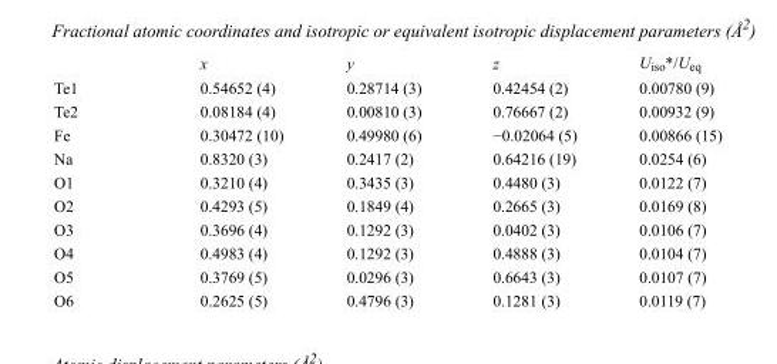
<table><thead><tr><td></td><td>x</td><td>y</td><td>z</td><td>U<sub>iso</sub>*/U<sub>eq</sub></td></tr></thead><tbody><tr><td>Te1</td><td>0.54652 (4)</td><td>0.28714 (3)</td><td>0.42454 (2)</td><td>0.00780 (9)</td></tr><tr><td>Te2</td><td>0.08184 (4)</td><td>0.00810 (3)</td><td>0.76667 (2)</td><td>0.00932 (9)</td></tr><tr><td>Fe</td><td>0.30472 (10)</td><td>0.49980 (6)</td><td>−0.02064 (5)</td><td>0.00866 (15)</td></tr><tr><td>Na</td><td>0.8320 (3)</td><td>0.2417 (2)</td><td>0.64216 (19)</td><td>0.0254 (6)</td></tr><tr><td>O1</td><td>0.3210 (4)</td><td>0.3435 (3)</td><td>0.4480 (3)</td><td>0.0122 (7)</td></tr><tr><td>O2</td><td>0.4293 (5)</td><td>0.1849 (4)</td><td>0.2665 (3)</td><td>0.0169 (8)</td></tr><tr><td>O3</td><td>0.3696 (4)</td><td>0.1292 (3)</td><td>0.0402 (3)</td><td>0.0106 (7)</td></tr><tr><td>O4</td><td>0.4983 (4)</td><td>0.1292 (3)</td><td>0.4888 (3)</td><td>0.0104 (7)</td></tr><tr><td>O5</td><td>0.3769 (5)</td><td>0.0296 (3)</td><td>0.6643 (3)</td><td>0.0107 (7)</td></tr><tr><td>O6</td><td>0.2625 (5)</td><td>0.4796 (3)</td><td>0.1281 (3)</td><td>0.0119 (7)</td></tr></tbody></table>